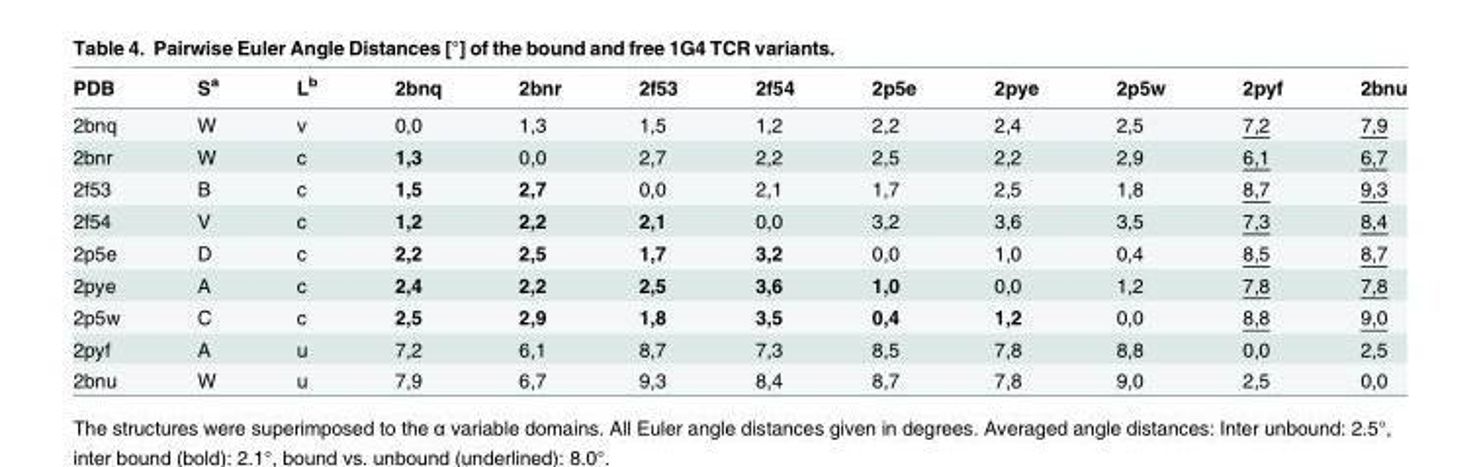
<table><thead><tr><td>PDB</td><td>S<sup>a</sup></td><td>L<sup>b</sup></td><td>2bnq</td><td>2bnr</td><td>2f53</td><td>2f54</td><td>2p5e</td><td>2pye</td><td>2p5w</td><td>2pyf</td><td>2bnu</td></tr></thead><tbody><tr><td>2bnq</td><td>W</td><td>v</td><td>0,0</td><td>1,3</td><td>1,5</td><td>1,2</td><td>2,2</td><td>2,4</td><td>2,5</td><td>7,2</td><td>7,9</td></tr><tr><td>2bnr</td><td>W</td><td>c</td><td>1,3</td><td>0,0</td><td>2,7</td><td>2,2</td><td>2,5</td><td>2,2</td><td>2,9</td><td>6,1</td><td>6,7</td></tr><tr><td>2f53</td><td>B</td><td>c</td><td>1,5</td><td>2,7</td><td>0,0</td><td>2,1</td><td>1,7</td><td>2,5</td><td>1,8</td><td>8,7</td><td>9,3</td></tr><tr><td>2f54</td><td>V</td><td>c</td><td>1,2</td><td>2,2</td><td>2,1</td><td>0,0</td><td>3,2</td><td>3,6</td><td>3,5</td><td>7,3</td><td>8,4</td></tr><tr><td>2p5e</td><td>D</td><td>c</td><td>2,2</td><td>2,5</td><td>1,7</td><td>3,2</td><td>0,0</td><td>1,0</td><td>0,4</td><td>8,5</td><td>8,7</td></tr><tr><td>2pye</td><td>A</td><td>c</td><td>2,4</td><td>2,2</td><td>2,5</td><td>3,6</td><td>1,0</td><td>0,0</td><td>1,2</td><td>7,8</td><td>7,8</td></tr><tr><td>2p5w</td><td>C</td><td>c</td><td>2,5</td><td>2,9</td><td>1,8</td><td>3,5</td><td>0,4</td><td>1,2</td><td>0,0</td><td>8,8</td><td>9,0</td></tr><tr><td>2pyf</td><td>A</td><td>u</td><td>7,2</td><td>6,1</td><td>8,7</td><td>7,3</td><td>8,5</td><td>7,8</td><td>8,8</td><td>0,0</td><td>2,5</td></tr><tr><td>2bnu</td><td>W</td><td>u</td><td>7,9</td><td>6,7</td><td>9,3</td><td>8,4</td><td>8,7</td><td>7,8</td><td>9,0</td><td>2,5</td><td>0,0</td></tr></tbody></table>